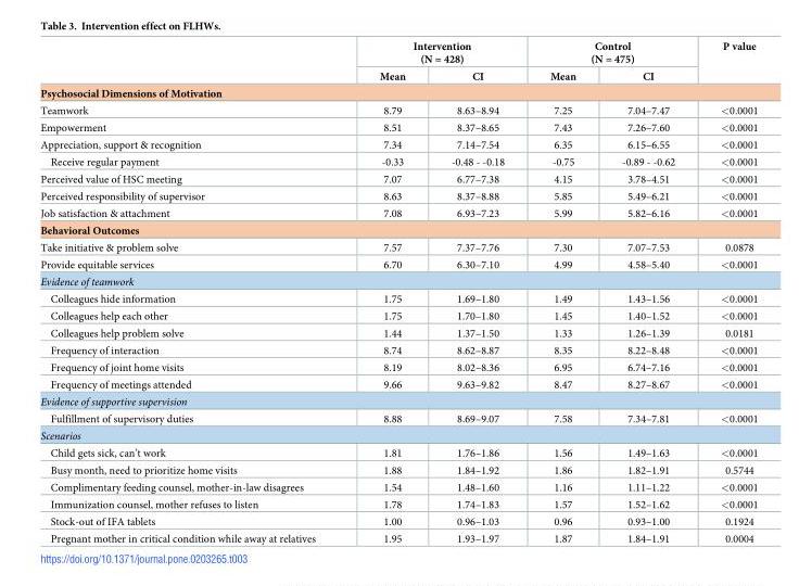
<table><thead><tr><td rowspan="2"></td><td colspan="2">Intervention (N = 428)</td><td colspan="2">Control (N = 475)</td><td rowspan="2">P value</td></tr><tr><td>Mean</td><td>CI</td><td>Mean</td><td>CI</td></tr></thead><tbody><tr><td colspan="6">Psychosocial Dimensions of Motivation</td></tr><tr><td>Teamwork</td><td>8.79</td><td>8.63–8.94</td><td>7.25</td><td>7.04–7.47</td><td>&lt;0.0001</td></tr><tr><td>Empowerment</td><td>8.51</td><td>8.37–8.65</td><td>7.43</td><td>7.26–7.60</td><td>&lt;0.0001</td></tr><tr><td>Appreciation, support &amp; recognition</td><td>7.34</td><td>7.14–7.54</td><td>6.35</td><td>6.15–6.55</td><td>&lt;0.0001</td></tr><tr><td>Receive regular payment</td><td>-0.33</td><td>-0.48 - -0.18</td><td>-0.75</td><td>-0.89 - -0.62</td><td>&lt;0.0001</td></tr><tr><td>Perceived value of HSC meeting</td><td>7.07</td><td>6.77–7.38</td><td>4.15</td><td>3.78–4.51</td><td>&lt;0.0001</td></tr><tr><td>Perceived responsibility of supervisor</td><td>8.63</td><td>8.37–8.88</td><td>5.85</td><td>5.49–6.21</td><td>&lt;0.0001</td></tr><tr><td>Job satisfaction &amp; attachment</td><td>7.08</td><td>6.93–7.23</td><td>5.99</td><td>5.82–6.16</td><td>&lt;0.0001</td></tr><tr><td colspan="6">Behavioral Outcomes</td></tr><tr><td>Take initiative &amp; problem solve</td><td>7.57</td><td>7.37–7.76</td><td>7.30</td><td>7.07–7.53</td><td>0.0878</td></tr><tr><td>Provide equitable services</td><td>6.70</td><td>6.30–7.10</td><td>4.99</td><td>4.58–5.40</td><td>&lt;0.0001</td></tr><tr><td colspan="6">Evidence of teamwork</td></tr><tr><td>Colleagues hide information</td><td>1.75</td><td>1.69–1.80</td><td>1.49</td><td>1.43–1.56</td><td>&lt;0.0001</td></tr><tr><td>Colleagues help each other</td><td>1.75</td><td>1.70–1.80</td><td>1.45</td><td>1.40–1.52</td><td>&lt;0.0001</td></tr><tr><td>Colleagues help problem solve</td><td>1.44</td><td>1.37–1.50</td><td>1.33</td><td>1.26–1.39</td><td>0.0181</td></tr><tr><td>Frequency of interaction</td><td>8.74</td><td>8.62–8.87</td><td>8.35</td><td>8.22–8.48</td><td>&lt;0.0001</td></tr><tr><td>Frequency of joint home visits</td><td>8.19</td><td>8.02–8.36</td><td>6.95</td><td>6.74–7.16</td><td>&lt;0.0001</td></tr><tr><td>Frequency of meetings attended</td><td>9.66</td><td>9.63–9.82</td><td>8.47</td><td>8.27–8.67</td><td>&lt;0.0001</td></tr><tr><td colspan="6">Evidence of supportive supervision</td></tr><tr><td>Fulfillment of supervisory duties</td><td>8.88</td><td>8.69–9.07</td><td>7.58</td><td>7.34–7.81</td><td>&lt;0.0001</td></tr><tr><td colspan="6">Scenarios</td></tr><tr><td>Child gets sick, can’t work</td><td>1.81</td><td>1.76–1.86</td><td>1.56</td><td>1.49–1.63</td><td>&lt;0.0001</td></tr><tr><td>Busy month, need to prioritize home visits</td><td>1.88</td><td>1.84–1.92</td><td>1.86</td><td>1.82–1.91</td><td>0.5744</td></tr><tr><td>Complimentary feeding counsel, mother-in-law disagrees</td><td>1.54</td><td>1.48–1.60</td><td>1.16</td><td>1.11–1.22</td><td>&lt;0.0001</td></tr><tr><td>Immunization counsel, mother refuses to listen</td><td>1.78</td><td>1.74–1.83</td><td>1.57</td><td>1.52–1.62</td><td>&lt;0.0001</td></tr><tr><td>Stock-out of IFA tablets</td><td>1.00</td><td>0.96–1.03</td><td>0.96</td><td>0.93–1.00</td><td>0.1924</td></tr><tr><td>Pregnant mother in critical condition while away at relatives</td><td>1.95</td><td>1.93–1.97</td><td>1.87</td><td>1.84–1.91</td><td>0.0004</td></tr></tbody></table>